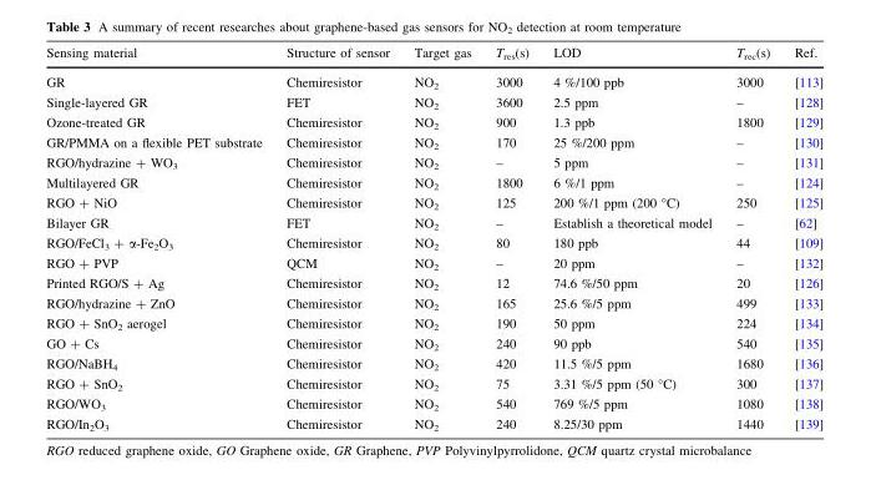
<table><thead><tr><td>Sensing material</td><td>Structure of sensor</td><td>Target gas</td><td>T<sub>res</sub>(s)</td><td>LOD</td><td>T<sub>rec</sub>(s)</td><td>Ref.</td></tr></thead><tbody><tr><td>GR</td><td>Chemiresistor</td><td>NO<sub>2</sub></td><td>3000</td><td>4 %/100 ppb</td><td>3000</td><td>[113]</td></tr><tr><td>Single-layered GR</td><td>FET</td><td>NO<sub>2</sub></td><td>3600</td><td>2.5 ppm</td><td>–</td><td>[128]</td></tr><tr><td>Ozone-treated GR</td><td>Chemiresistor</td><td>NO<sub>2</sub></td><td>900</td><td>1.3 ppb</td><td>1800</td><td>[129]</td></tr><tr><td>GR/PMMA on a flexible PET substrate</td><td>Chemiresistor</td><td>NO<sub>2</sub></td><td>170</td><td>25 %/200 ppm</td><td>–</td><td>[130]</td></tr><tr><td>RGO/hydrazine + WO<sub>3</sub></td><td>Chemiresistor</td><td>NO<sub>2</sub></td><td>–</td><td>5 ppm</td><td>–</td><td>[131]</td></tr><tr><td>Multilayered GR</td><td>Chemiresistor</td><td>NO<sub>2</sub></td><td>1800</td><td>6 %/1 ppm</td><td>–</td><td>[124]</td></tr><tr><td>RGO + NiO</td><td>Chemiresistor</td><td>NO<sub>2</sub></td><td>125</td><td>200 %/1 ppm (200 °C)</td><td>250</td><td>[125]</td></tr><tr><td>Bilayer GR</td><td>FET</td><td>NO<sub>2</sub></td><td>–</td><td>Establish a theoretical model</td><td>–</td><td>[62]</td></tr><tr><td>RGO/FeCl<sub>3</sub> + α-Fe<sub>2</sub>O<sub>3</sub></td><td>Chemiresistor</td><td>NO<sub>2</sub></td><td>80</td><td>180 ppb</td><td>44</td><td>[109]</td></tr><tr><td>RGO + PVP</td><td>QCM</td><td>NO<sub>2</sub></td><td>–</td><td>20 ppm</td><td>–</td><td>[132]</td></tr><tr><td>Printed RGO/S + Ag</td><td>Chemiresistor</td><td>NO<sub>2</sub></td><td>12</td><td>74.6 %/50 ppm</td><td>20</td><td>[126]</td></tr><tr><td>RGO/hydrazine + ZnO</td><td>Chemiresistor</td><td>NO<sub>2</sub></td><td>165</td><td>25.6 %/5 ppm</td><td>499</td><td>[133]</td></tr><tr><td>RGO + SnO<sub>2</sub> aerogel</td><td>Chemiresistor</td><td>NO<sub>2</sub></td><td>190</td><td>50 ppm</td><td>224</td><td>[134]</td></tr><tr><td>GO + Cs</td><td>Chemiresistor</td><td>NO<sub>2</sub></td><td>240</td><td>90 ppb</td><td>540</td><td>[135]</td></tr><tr><td>RGO/NaBH<sub>4</sub></td><td>Chemiresistor</td><td>NO<sub>2</sub></td><td>420</td><td>11.5 %/5 ppm</td><td>1680</td><td>[136]</td></tr><tr><td>RGO + SnO<sub>2</sub></td><td>Chemiresistor</td><td>NO<sub>2</sub></td><td>75</td><td>3.31 %/5 ppm (50 °C)</td><td>300</td><td>[137]</td></tr><tr><td>RGO/WO<sub>3</sub></td><td>Chemiresistor</td><td>NO<sub>2</sub></td><td>540</td><td>769 %/5 ppm</td><td>1080</td><td>[138]</td></tr><tr><td>RGO/In<sub>2</sub>O<sub>3</sub></td><td>Chemiresistor</td><td>NO<sub>2</sub></td><td>240</td><td>8.25/30 ppm</td><td>1440</td><td>[139]</td></tr></tbody></table>